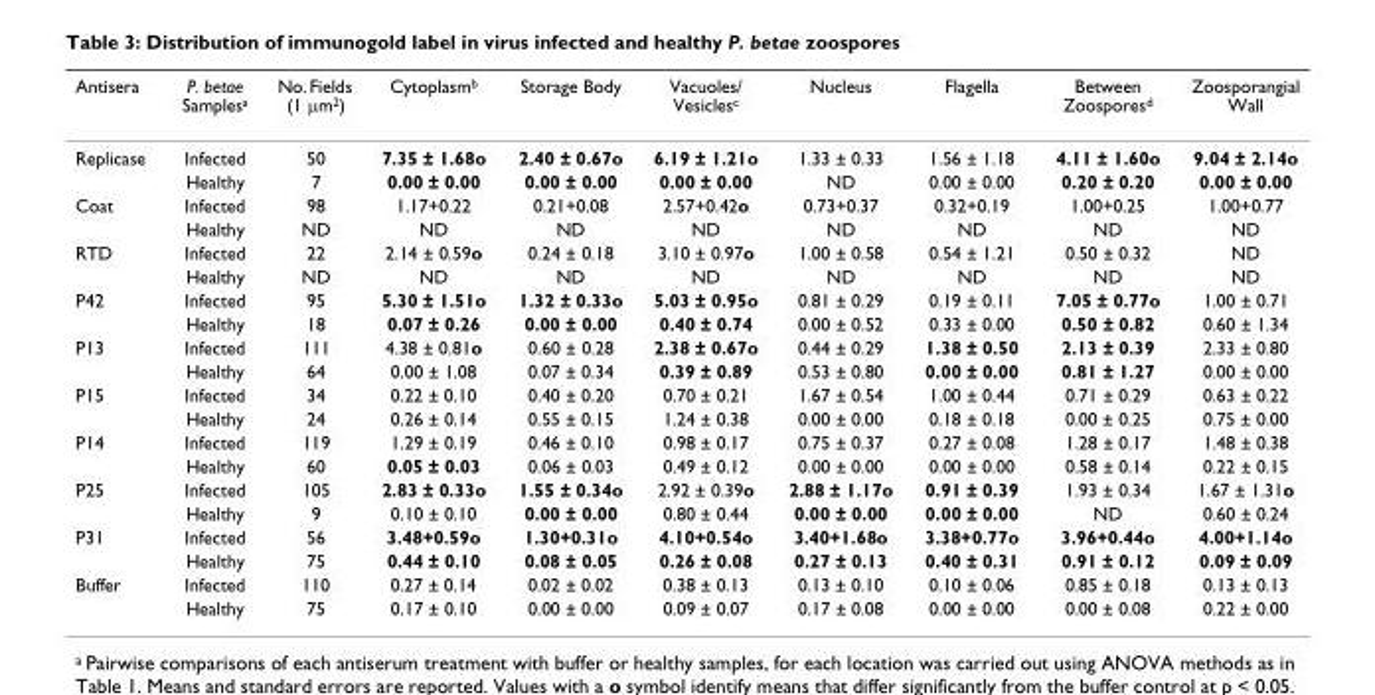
<table><thead><tr><td>Antisera</td><td>P. betae Samples<sup>a</sup></td><td>No. Fields (1 µm<sup>2</sup>)</td><td>Cytoplasm<sup>b</sup></td><td>Storage Body</td><td>Vacuoles/ Vesicles<sup>c</sup></td><td>Nucleus</td><td>Flagella</td><td>Between Zoospores<sup>d</sup></td><td>Zoosporangial Wall</td></tr></thead><tbody><tr><td rowspan="2">Replicase</td><td>Infected</td><td>50</td><td>7.35 ± 1.68o</td><td>2.40 ± 0.67o</td><td>6.19 ± 1.21o</td><td>1.33 ± 0.33</td><td>1.56 ± 1.18</td><td>4.11 ± 1.60o</td><td>9.04 ± 2.14o</td></tr><tr><td>Healthy</td><td>7</td><td>0.00 ± 0.00</td><td>0.00 ± 0.00</td><td>0.00 ± 0.00</td><td>ND</td><td>0.00 ± 0.00</td><td>0.20 ± 0.20</td><td>0.00 ± 0.00</td></tr><tr><td rowspan="2">Coat</td><td>Infected</td><td>98</td><td>1.17+0.22</td><td>0.21+0.08</td><td>2.57+0.42o</td><td>0.73+0.37</td><td>0.32+0.19</td><td>1.00+0.25</td><td>1.00+0.77</td></tr><tr><td>Healthy</td><td>ND</td><td>ND</td><td>ND</td><td>ND</td><td>ND</td><td>ND</td><td>ND</td><td>ND</td></tr><tr><td rowspan="2">RTD</td><td>Infected</td><td>22</td><td>2.14 ± 0.59o</td><td>0.24 ± 0.18</td><td>3.10 ± 0.97o</td><td>1.00 ± 0.58</td><td>0.54 ± 1.21</td><td>0.50 ± 0.32</td><td>ND</td></tr><tr><td>Healthy</td><td>ND</td><td>ND</td><td>ND</td><td>ND</td><td>ND</td><td>ND</td><td>ND</td><td>ND</td></tr><tr><td rowspan="2">P42</td><td>Infected</td><td>95</td><td>5.30 ± 1.51o</td><td>1.32 ± 0.33o</td><td>5.03 ± 0.95o</td><td>0.81 ± 0.29</td><td>0.19 ± 0.11</td><td>7.05 ± 0.77o</td><td>1.00 ± 0.71</td></tr><tr><td>Healthy</td><td>18</td><td>0.07 ± 0.26</td><td>0.00 ± 0.00</td><td>0.40 ± 0.74</td><td>0.00 ± 0.52</td><td>0.33 ± 0.00</td><td>0.50 ± 0.82</td><td>0.60 ± 1.34</td></tr><tr><td rowspan="2">P13</td><td>Infected</td><td>111</td><td>4.38 ± 0.81o</td><td>0.60 ± 0.28</td><td>2.38 ± 0.67o</td><td>0.44 ± 0.29</td><td>1.38 ± 0.50</td><td>2.13 ± 0.39</td><td>2.33 ± 0.80</td></tr><tr><td>Healthy</td><td>64</td><td>0.00 ± 1.08</td><td>0.07 ± 0.34</td><td>0.39 ± 0.89</td><td>0.53 ± 0.80</td><td>0.00 ± 0.00</td><td>0.81 ± 1.27</td><td>0.00 ± 0.00</td></tr><tr><td rowspan="2">P15</td><td>Infected</td><td>34</td><td>0.22 ± 0.10</td><td>0.40 ± 0.20</td><td>0.70 ± 0.21</td><td>1.67 ± 0.54</td><td>1.00 ± 0.44</td><td>0.71 ± 0.29</td><td>0.63 ± 0.22</td></tr><tr><td>Healthy</td><td>24</td><td>0.26 ± 0.14</td><td>0.55 ± 0.15</td><td>1.24 ± 0.38</td><td>0.00 ± 0.00</td><td>0.18 ± 0.18</td><td>0.00 ± 0.25</td><td>0.75 ± 0.00</td></tr><tr><td rowspan="2">P14</td><td>Infected</td><td>119</td><td>1.29 ± 0.19</td><td>0.46 ± 0.10</td><td>0.98 ± 0.17</td><td>0.75 ± 0.37</td><td>0.27 ± 0.08</td><td>1.28 ± 0.17</td><td>1.48 ± 0.38</td></tr><tr><td>Healthy</td><td>60</td><td>0.05 ± 0.03</td><td>0.06 ± 0.03</td><td>0.49 ± 0.12</td><td>0.00 ± 0.00</td><td>0.00 ± 0.00</td><td>0.58 ± 0.14</td><td>0.22 ± 0.15</td></tr><tr><td rowspan="2">P25</td><td>Infected</td><td>105</td><td>2.83 ± 0.33o</td><td>1.55 ± 0.34o</td><td>2.92 ± 0.39o</td><td>2.88 ± 1.17o</td><td>0.91 ± 0.39</td><td>1.93 ± 0.34</td><td>1.67 ± 1.31o</td></tr><tr><td>Healthy</td><td>9</td><td>0.10 ± 0.10</td><td>0.00 ± 0.00</td><td>0.80 ± 0.44</td><td>0.00 ± 0.00</td><td>0.00 ± 0.00</td><td>ND</td><td>0.60 ± 0.24</td></tr><tr><td rowspan="2">P31</td><td>Infected</td><td>56</td><td>3.48+0.59o</td><td>1.30+0.31o</td><td>4.10+0.54o</td><td>3.40+1.68o</td><td>3.38+0.77o</td><td>3.96+0.44o</td><td>4.00+1.14o</td></tr><tr><td>Healthy</td><td>75</td><td>0.44 ± 0.10</td><td>0.08 ± 0.05</td><td>0.26 ± 0.08</td><td>0.27 ± 0.13</td><td>0.40 ± 0.31</td><td>0.91 ± 0.12</td><td>0.09 ± 0.09</td></tr><tr><td rowspan="2">Buffer</td><td>Infected</td><td>110</td><td>0.27 ± 0.14</td><td>0.02 ± 0.02</td><td>0.38 ± 0.13</td><td>0.13 ± 0.10</td><td>0.10 ± 0.06</td><td>0.85 ± 0.18</td><td>0.13 ± 0.13</td></tr><tr><td>Healthy</td><td>75</td><td>0.17 ± 0.10</td><td>0.00 ± 0.00</td><td>0.09 ± 0.07</td><td>0.17 ± 0.08</td><td>0.00 ± 0.00</td><td>0.00 ± 0.08</td><td>0.22 ± 0.00</td></tr></tbody></table>